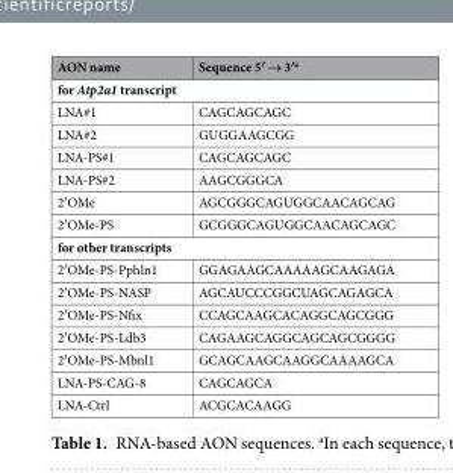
<table><thead><tr><td>AON name</td><td>Sequence 5′ → 3′<sup>a</sup></td></tr></thead><tbody><tr><td colspan="2">for Atp2a1 transcript</td></tr><tr><td>LNA#1</td><td>CAGCAGCAGC</td></tr><tr><td>LNA#2</td><td>GUGGAAGCGG</td></tr><tr><td>LNA-PS#1</td><td>CAGCAGCAGC</td></tr><tr><td>LNA-PS#2</td><td>AAGCGGGCA</td></tr><tr><td>2′OMe</td><td>AGCGGGCAGUGGCAACAGCAG</td></tr><tr><td>2′OMe-PS</td><td>GCGGGCAGUGGCAACAGCAGC</td></tr><tr><td colspan="2">for other transcripts</td></tr><tr><td>2′OMe-PS-Pphln1</td><td>GGAGAAGCAAAAAGCAAGAGA</td></tr><tr><td>2′OMe-PS-NASP</td><td>AGCAUCCCGGCUAGCAGAGCA</td></tr><tr><td>2′OMe-PS-Nfix</td><td>CCAGCAAGCACAGGCAGCGGG</td></tr><tr><td>2′OMe-PS-Ldb3</td><td>CAGAAGCAGGCAGCAGCGGGG</td></tr><tr><td>2′OMe-PS-Mbnl1</td><td>GCAGCAAGCAAGGCAAAAGCA</td></tr><tr><td>LNA-PS-CAG-8</td><td>CAGCAGCA</td></tr><tr><td>LNA-Ctrl</td><td>ACGCACAAGG</td></tr></tbody></table>